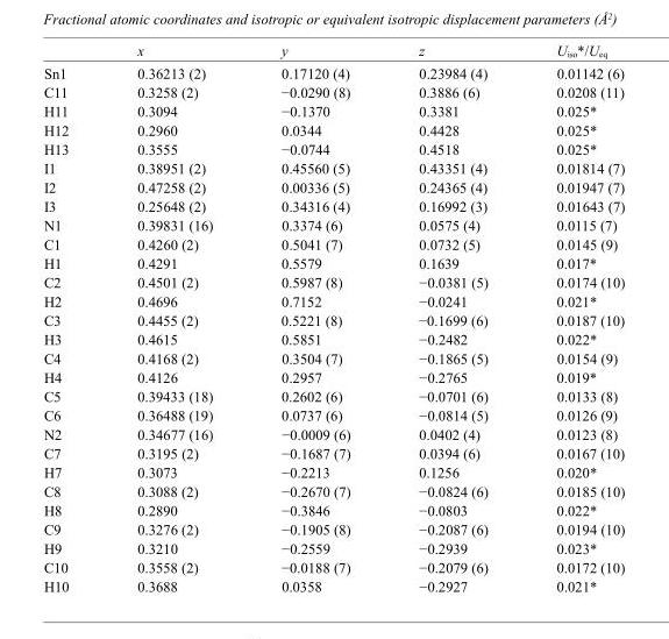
<table><thead><tr><td></td><td>x</td><td>y</td><td>z</td><td>U<sub>iso</sub>*/U<sub>eq</sub></td></tr></thead><tbody><tr><td>Sn1</td><td>0.36213 (2)</td><td>0.17120 (4)</td><td>0.23984 (4)</td><td>0.01142 (6)</td></tr><tr><td>C11</td><td>0.3258 (2)</td><td>−0.0290 (8)</td><td>0.3886 (6)</td><td>0.0208 (11)</td></tr><tr><td>H11</td><td>0.3094</td><td>−0.1370</td><td>0.3381</td><td>0.025*</td></tr><tr><td>H12</td><td>0.2960</td><td>0.0344</td><td>0.4428</td><td>0.025*</td></tr><tr><td>H13</td><td>0.3555</td><td>−0.0744</td><td>0.4518</td><td>0.025*</td></tr><tr><td>I1</td><td>0.38951 (2)</td><td>0.45560 (5)</td><td>0.43351 (4)</td><td>0.01814 (7)</td></tr><tr><td>I2</td><td>0.47258 (2)</td><td>0.00336 (5)</td><td>0.24365 (4)</td><td>0.01947 (7)</td></tr><tr><td>I3</td><td>0.25648 (2)</td><td>0.34316 (4)</td><td>0.16992 (3)</td><td>0.01643 (7)</td></tr><tr><td>N1</td><td>0.39831 (16)</td><td>0.3374 (6)</td><td>0.0575 (4)</td><td>0.0115 (7)</td></tr><tr><td>C1</td><td>0.4260 (2)</td><td>0.5041 (7)</td><td>0.0732 (5)</td><td>0.0145 (9)</td></tr><tr><td>H1</td><td>0.4291</td><td>0.5579</td><td>0.1639</td><td>0.017*</td></tr><tr><td>C2</td><td>0.4501 (2)</td><td>0.5987 (8)</td><td>−0.0381 (5)</td><td>0.0174 (10)</td></tr><tr><td>H2</td><td>0.4696</td><td>0.7152</td><td>−0.0241</td><td>0.021*</td></tr><tr><td>C3</td><td>0.4455 (2)</td><td>0.5221 (8)</td><td>−0.1699 (6)</td><td>0.0187 (10)</td></tr><tr><td>H3</td><td>0.4615</td><td>0.5851</td><td>−0.2482</td><td>0.022*</td></tr><tr><td>C4</td><td>0.4168 (2)</td><td>0.3504 (7)</td><td>−0.1865 (5)</td><td>0.0154 (9)</td></tr><tr><td>H4</td><td>0.4126</td><td>0.2957</td><td>−0.2765</td><td>0.019*</td></tr><tr><td>C5</td><td>0.39433 (18)</td><td>0.2602 (6)</td><td>−0.0701 (6)</td><td>0.0133 (8)</td></tr><tr><td>C6</td><td>0.36488 (19)</td><td>0.0737 (6)</td><td>−0.0814 (5)</td><td>0.0126 (9)</td></tr><tr><td>N2</td><td>0.34677 (16)</td><td>−0.0009 (6)</td><td>0.0402 (4)</td><td>0.0123 (8)</td></tr><tr><td>C7</td><td>0.3195 (2)</td><td>−0.1687 (7)</td><td>0.0394 (6)</td><td>0.0167 (10)</td></tr><tr><td>H7</td><td>0.3073</td><td>−0.2213</td><td>0.1256</td><td>0.020*</td></tr><tr><td>C8</td><td>0.3088 (2)</td><td>−0.2670 (7)</td><td>−0.0824 (6)</td><td>0.0185 (10)</td></tr><tr><td>H8</td><td>0.2890</td><td>−0.3846</td><td>−0.0803</td><td>0.022*</td></tr><tr><td>C9</td><td>0.3276 (2)</td><td>−0.1905 (8)</td><td>−0.2087 (6)</td><td>0.0194 (10)</td></tr><tr><td>H9</td><td>0.3210</td><td>−0.2559</td><td>−0.2939</td><td>0.023*</td></tr><tr><td>C10</td><td>0.3558 (2)</td><td>−0.0188 (7)</td><td>−0.2079 (6)</td><td>0.0172 (10)</td></tr><tr><td>H10</td><td>0.3688</td><td>0.0358</td><td>−0.2927</td><td>0.021*</td></tr></tbody></table>